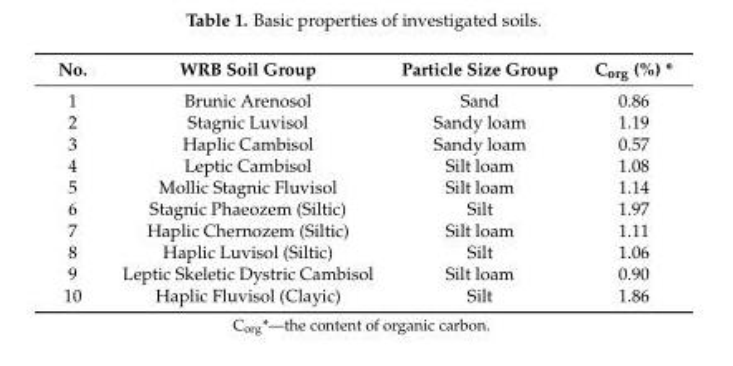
<table><thead><tr><td>No.</td><td>WRB Soil Group</td><td>Particle Size Group</td><td>C<sub>org</sub> (%) *</td></tr></thead><tbody><tr><td>1</td><td>Brunic Arenosol</td><td>Sand</td><td>0.86</td></tr><tr><td>2</td><td>Stagnic Luvisol</td><td>Sandy loam</td><td>1.19</td></tr><tr><td>3</td><td>Haplic Cambisol</td><td>Sandy loam</td><td>0.57</td></tr><tr><td>4</td><td>Leptic Cambisol</td><td>Silt loam</td><td>1.08</td></tr><tr><td>5</td><td>Mollic Stagnic Fluvisol</td><td>Silt loam</td><td>1.14</td></tr><tr><td>6</td><td>Stagnic Phaeozem (Siltic)</td><td>Silt</td><td>1.97</td></tr><tr><td>7</td><td>Haplic Chernozem (Siltic)</td><td>Silt loam</td><td>1.11</td></tr><tr><td>8</td><td>Haplic Luvisol (Siltic)</td><td>Silt</td><td>1.06</td></tr><tr><td>9</td><td>Leptic Skeletic Dystric Cambisol</td><td>Silt loam</td><td>0.90</td></tr><tr><td>10</td><td>Haplic Fluvisol (Clayic)</td><td>Silt</td><td>1.86</td></tr></tbody></table>